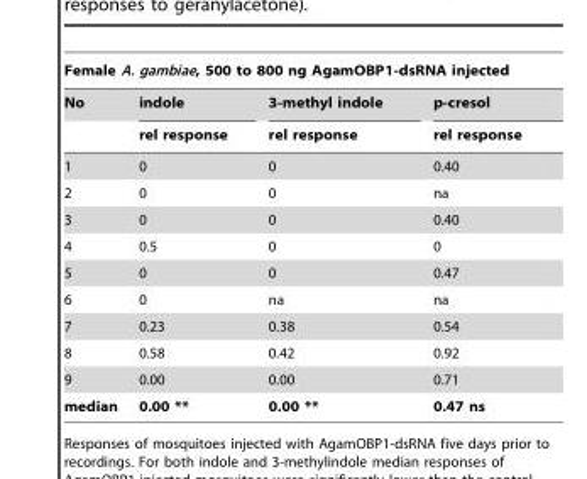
<table><thead><tr><td colspan="4">Female A. gambiae, 500 to 800 ng AgamOBP1-dsRNA injected</td></tr><tr><td rowspan="2">No</td><td rowspan="2">indole rel response</td><td rowspan="2">3-methyl indole rel response</td><td rowspan="2">p-cresol rel response</td></tr><tr></tr></thead><tbody><tr><td>1</td><td>0</td><td>0</td><td>0.40</td></tr><tr><td>2</td><td>0</td><td>0</td><td>na</td></tr><tr><td>3</td><td>0</td><td>0</td><td>0.40</td></tr><tr><td>4</td><td>0.5</td><td>0</td><td>0</td></tr><tr><td>5</td><td>0</td><td>0</td><td>0.47</td></tr><tr><td>6</td><td>0</td><td>na</td><td>na</td></tr><tr><td>7</td><td>0.23</td><td>0.38</td><td>0.54</td></tr><tr><td>8</td><td>0.58</td><td>0.42</td><td>0.92</td></tr><tr><td>9</td><td>0.00</td><td>0.00</td><td>0.71</td></tr><tr><td>median</td><td>0.00 **</td><td>0.00 **</td><td>0.47 ns</td></tr></tbody></table>